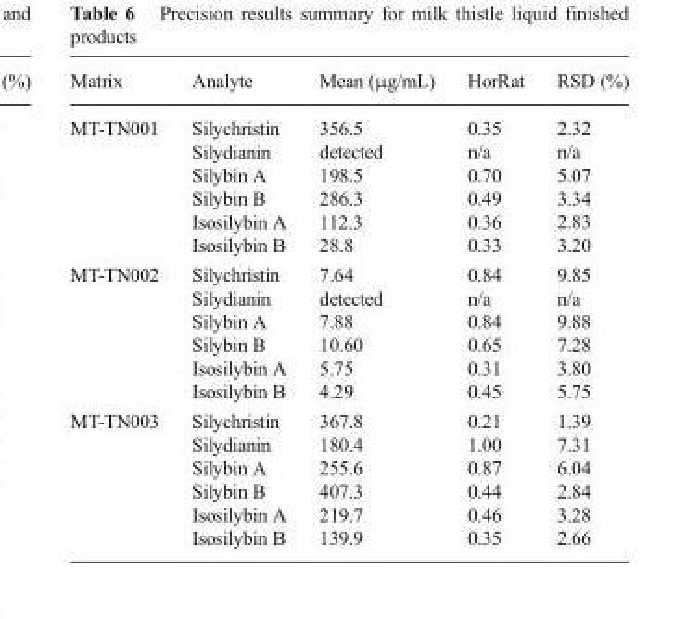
<table><thead><tr><td>Matrix</td><td>Analyte</td><td>Mean (μg/mL)</td><td>HorRat</td><td>RSD (%)</td></tr></thead><tbody><tr><td>MT-TN001</td><td>Silychristin Silydianin Silybin A Silybin B Isosilybin A Isosilybin B</td><td>356.5 detected 198.5 286.3 112.3 28.8</td><td>0.35 n/a 0.70 0.49 0.36 0.33</td><td>2.32 n/a 5.07 3.34 2.83 3.20</td></tr><tr><td>MT-TN002</td><td>Silychristin Silydianin Silybin A Silybin B Isosilybin A Isosilybin B</td><td>7.64 detected 7.88 10.60 5.75 4.29</td><td>0.84 n/a 0.84 0.65 0.31 0.45</td><td>9.85 n/a 9.88 7.28 3.80 5.75</td></tr><tr><td>MT-TN003</td><td>Silychristin Silydianin Silybin A Silybin B Isosilybin A Isosilybin B</td><td>367.8 180.4 255.6 407.3 219.7 139.9</td><td>0.21 1.00 0.87 0.44 0.46 0.35</td><td>1.39 7.31 6.04 2.84 3.28 2.66</td></tr></tbody></table>